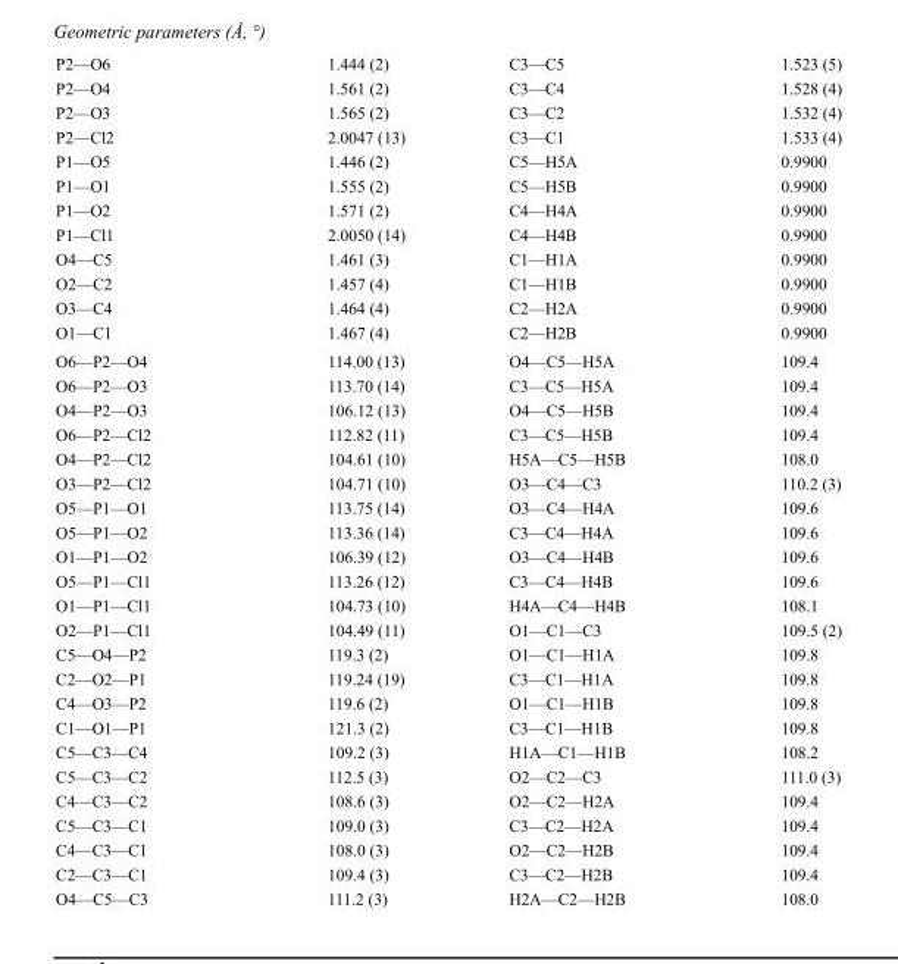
<table><tbody><tr><td>P2—O6</td><td>1.444 (2)</td><td>C3—C5</td><td>1.523 (5)</td></tr><tr><td>P2—O4</td><td>1.561 (2)</td><td>C3—C4</td><td>1.528 (4)</td></tr><tr><td>P2—O3</td><td>1.565 (2)</td><td>C3—C2</td><td>1.532 (4)</td></tr><tr><td>P2—Cl2</td><td>2.0047 (13)</td><td>C3—C1</td><td>1.533 (4)</td></tr><tr><td>P1—O5</td><td>1.446 (2)</td><td>C5—H5A</td><td>0.9900</td></tr><tr><td>P1—O1</td><td>1.555 (2)</td><td>C5—H5B</td><td>0.9900</td></tr><tr><td>P1—O2</td><td>1.571 (2)</td><td>C4—H4A</td><td>0.9900</td></tr><tr><td>P1—Cl1</td><td>2.0050 (14)</td><td>C4—H4B</td><td>0.9900</td></tr><tr><td>O4—C5</td><td>1.461 (3)</td><td>C1—H1A</td><td>0.9900</td></tr><tr><td>O2—C2</td><td>1.457 (4)</td><td>C1—H1B</td><td>0.9900</td></tr><tr><td>O3—C4</td><td>1.464 (4)</td><td>C2—H2A</td><td>0.9900</td></tr><tr><td>O1—C1</td><td>1.467 (4)</td><td>C2—H2B</td><td>0.9900</td></tr><tr><td>O6—P2—O4</td><td>114.00 (13)</td><td>O4—C5—H5A</td><td>109.4</td></tr><tr><td>O6—P2—O3</td><td>113.70 (14)</td><td>C3—C5—H5A</td><td>109.4</td></tr><tr><td>O4—P2—O3</td><td>106.12 (13)</td><td>O4—C5—H5B</td><td>109.4</td></tr><tr><td>O6—P2—Cl2</td><td>112.82 (11)</td><td>C3—C5—H5B</td><td>109.4</td></tr><tr><td>O4—P2—Cl2</td><td>104.61 (10)</td><td>H5A—C5—H5B</td><td>108.0</td></tr><tr><td>O3—P2—Cl2</td><td>104.71 (10)</td><td>O3—C4—C3</td><td>110.2 (3)</td></tr><tr><td>O5—P1—O1</td><td>113.75 (14)</td><td>O3—C4—H4A</td><td>109.6</td></tr><tr><td>O5—P1—O2</td><td>113.36 (14)</td><td>C3—C4—H4A</td><td>109.6</td></tr><tr><td>O1—P1—O2</td><td>106.39 (12)</td><td>O3—C4—H4B</td><td>109.6</td></tr><tr><td>O5—P1—Cl1</td><td>113.26 (12)</td><td>C3—C4—H4B</td><td>109.6</td></tr><tr><td>O1—P1—Cl1</td><td>104.73 (10)</td><td>H4A—C4—H4B</td><td>108.1</td></tr><tr><td>O2—P1—Cl1</td><td>104.49 (11)</td><td>O1—C1—C3</td><td>109.5 (2)</td></tr><tr><td>C5—O4—P2</td><td>119.3 (2)</td><td>O1—C1—H1A</td><td>109.8</td></tr><tr><td>C2—O2—P1</td><td>119.24 (19)</td><td>C3—C1—H1A</td><td>109.8</td></tr><tr><td>C4—O3—P2</td><td>119.6 (2)</td><td>O1—C1—H1B</td><td>109.8</td></tr><tr><td>C1—O1—P1</td><td>121.3 (2)</td><td>C3—C1—H1B</td><td>109.8</td></tr><tr><td>C5—C3—C4</td><td>109.2 (3)</td><td>H1A—C1—H1B</td><td>108.2</td></tr><tr><td>C5—C3—C2</td><td>112.5 (3)</td><td>O2—C2—C3</td><td>111.0 (3)</td></tr><tr><td>C4—C3—C2</td><td>108.6 (3)</td><td>O2—C2—H2A</td><td>109.4</td></tr><tr><td>C5—C3—C1</td><td>109.0 (3)</td><td>C3—C2—H2A</td><td>109.4</td></tr><tr><td>C4—C3—C1</td><td>108.0 (3)</td><td>O2—C2—H2B</td><td>109.4</td></tr><tr><td>C2—C3—C1</td><td>109.4 (3)</td><td>C3—C2—H2B</td><td>109.4</td></tr><tr><td>O4—C5—C3</td><td>111.2 (3)</td><td>H2A—C2—H2B</td><td>108.0</td></tr></tbody></table>